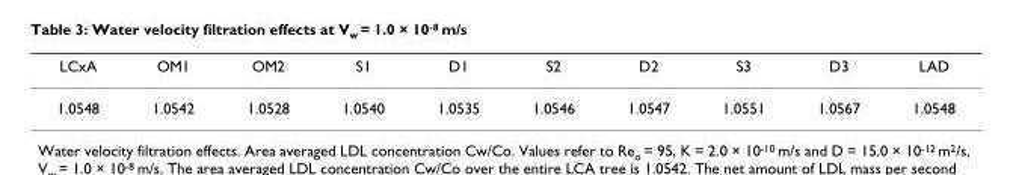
<table><thead><tr><td>LCxA</td><td>OM1</td><td>OM2</td><td>S1</td><td>D1</td><td>S2</td><td>D2</td><td>S3</td><td>D3</td><td>LAD</td></tr></thead><tbody><tr><td>1.0548</td><td>1.0542</td><td>1.0528</td><td>1.0540</td><td>1.0535</td><td>1.0546</td><td>1.0547</td><td>1.0551</td><td>1.0567</td><td>1.0548</td></tr></tbody></table>